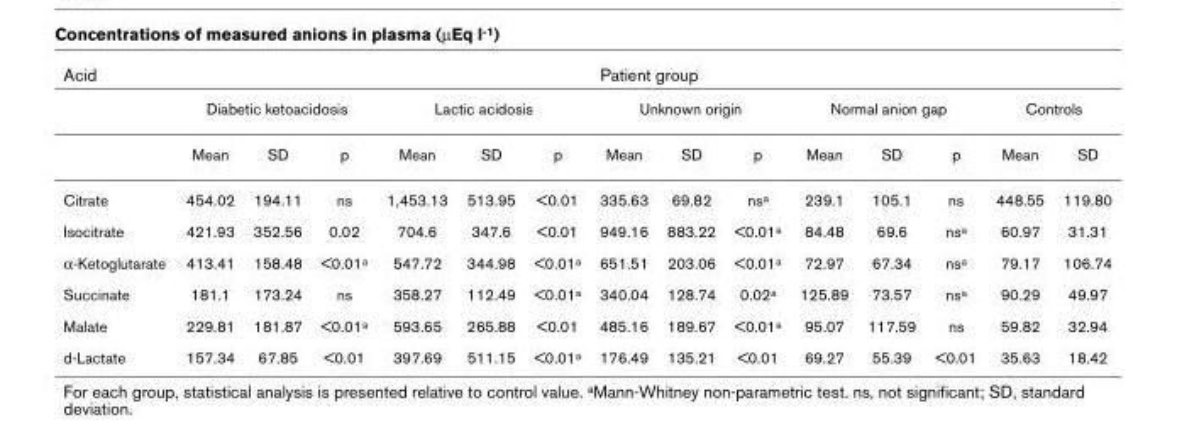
<table><thead><tr><td rowspan="3">Acid</td><td colspan="14">Patient group</td></tr><tr><td colspan="3">Diabetic ketoacidosis</td><td colspan="3">Lactic acidosis</td><td colspan="3">Unknown origin</td><td colspan="3">Normal anion gap</td><td colspan="2">Controls</td></tr><tr><td>Mean</td><td>SD</td><td>p</td><td>Mean</td><td>SD</td><td>p</td><td>Mean</td><td>SD</td><td>p</td><td>Mean</td><td>SD</td><td>p</td><td>Mean</td><td>SD</td></tr></thead><tbody><tr><td>Citrate</td><td>454.02</td><td>194.11</td><td>ns</td><td>1,453.13</td><td>513.95</td><td>&lt;0.01</td><td>335.63</td><td>69.82</td><td>nsa</td><td>239.1</td><td>105.1</td><td>ns</td><td>448.55</td><td>119.80</td></tr><tr><td>Isocitrate</td><td>421.93</td><td>352.56</td><td>0.02</td><td>704.6</td><td>347.6</td><td>&lt;0.01</td><td>949.16</td><td>883.22</td><td>&lt;0.01a</td><td>84.48</td><td>69.6</td><td>nsa</td><td>60.97</td><td>31.31</td></tr><tr><td>α-Ketoglutarate</td><td>413.41</td><td>158.48</td><td>&lt;0.01a</td><td>547.72</td><td>344.98</td><td>&lt;0.01a</td><td>651.51</td><td>203.06</td><td>&lt;0.01a</td><td>72.97</td><td>67.34</td><td>nsa</td><td>79.17</td><td>106.74</td></tr><tr><td>Succinate</td><td>181.1</td><td>173.24</td><td>ns</td><td>358.27</td><td>112.49</td><td>&lt;0.01a</td><td>340.04</td><td>128.74</td><td>0.02a</td><td>125.89</td><td>73.57</td><td>nsa</td><td>90.29</td><td>49.97</td></tr><tr><td>Malate</td><td>229.81</td><td>181.87</td><td>&lt;0.01a</td><td>593.65</td><td>265.88</td><td>&lt;0.01</td><td>485.16</td><td>189.67</td><td>&lt;0.01a</td><td>95.07</td><td>117.59</td><td>ns</td><td>59.82</td><td>32.94</td></tr><tr><td>d-Lactate</td><td>157.34</td><td>67.85</td><td>&lt;0.01</td><td>397.69</td><td>511.15</td><td>&lt;0.01a</td><td>176.49</td><td>135.21</td><td>&lt;0.01</td><td>69.27</td><td>55.39</td><td>&lt;0.01</td><td>35.63</td><td>18.42</td></tr></tbody></table>